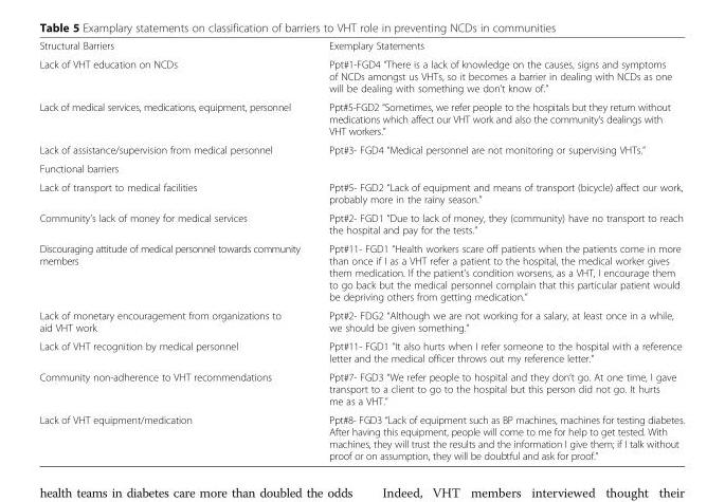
<table><tbody><tr><td>Structural Barriers</td><td>Exemplary Statements</td></tr><tr><td>Lack of VHT education on NCDs</td><td>Ppt#1-FGD4 “There is a lack of knowledge on the causes, signs and symptoms of NCDs amongst us VHTs, so it becomes a barrier in dealing with NCDs as one will be dealing with something we don’t know of.”</td></tr><tr><td>Lack of medical services, medications, equipment, personnel</td><td>Ppt#5-FGD2 “Sometimes, we refer people to the hospitals but they return without medications which affect our VHT work and also the community’s dealings with VHT workers.”</td></tr><tr><td>Lack of assistance/supervision from medical personnel</td><td>Ppt#3- FGD4 “Medical personnel are not monitoring or supervising VHTs.”</td></tr><tr><td colspan="2">Functional barriers</td></tr><tr><td>Lack of transport to medical facilities</td><td>Ppt#5- FGD2 “Lack of equipment and means of transport (bicycle) affect our work, probably more in the rainy season.”</td></tr><tr><td>Community’s lack of money for medical services</td><td>Ppt#2- FGD1 “Due to lack of money, they (community) have no transport to reach the hospital and pay for the tests.”</td></tr><tr><td>Discouraging attitude of medical personnel towards community members</td><td>Ppt#11- FGD1 “Health workers scare off patients when the patients come in more than once if I as a VHT refer a patient to the hospital, the medical worker gives them medication. If the patient’s condition worsens, as a VHT, I encourage them to go back but the medical personnel complain that this particular patient would be depriving others from getting medication.”</td></tr><tr><td>Lack of monetary encouragement from organizations to aid VHT work</td><td>Ppt#2- FDG2 “Although we are not working for a salary, at least once in a while, we should be given something.”</td></tr><tr><td>Lack of VHT recognition by medical personnel</td><td>Ppt#11- FGD1 “It also hurts when I refer someone to the hospital with a reference letter and the medical officer throws out my reference letter.”</td></tr><tr><td>Community non-adherence to VHT recommendations</td><td>Ppt#7- FGD3 “We refer people to hospital and they don’t go. At one time, I gave transport to a client to go to the hospital but this person did not go. It hurts me as a VHT.”</td></tr><tr><td>Lack of VHT equipment/medication</td><td>Ppt#8- FGD3 “Lack of equipment such as BP machines, machines for testing diabetes. After having this equipment, people will come to me for help to get tested. With machines, they will trust the results and the information I give them; if I talk without proof or on assumption, they will be doubtful and ask for proof.”</td></tr></tbody></table>